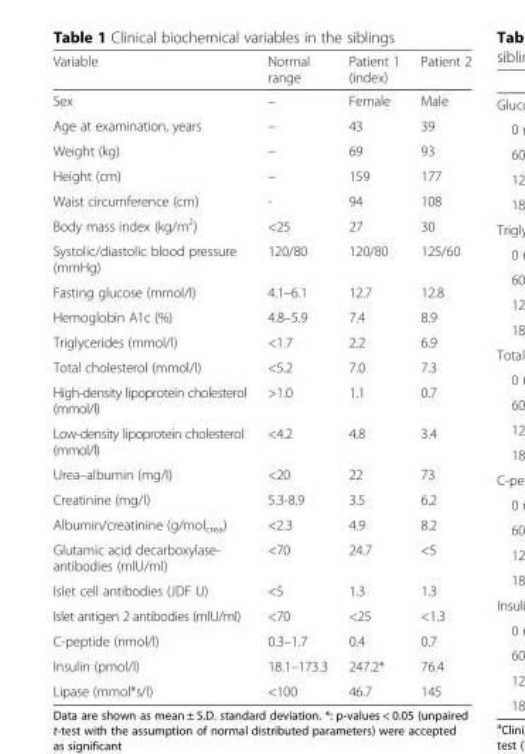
<table><thead><tr><td>Variable</td><td>Normal range</td><td>Patient 1 (index)</td><td>Patient 2</td></tr></thead><tbody><tr><td>Sex</td><td>–</td><td>Female</td><td>Male</td></tr><tr><td>Age at examination, years</td><td>–</td><td>43</td><td>39</td></tr><tr><td>Weight (kg)</td><td>–</td><td>69</td><td>93</td></tr><tr><td>Height (cm)</td><td>–</td><td>159</td><td>177</td></tr><tr><td>Waist circumference (cm)</td><td>-</td><td>94</td><td>108</td></tr><tr><td>Body mass index (kg/m<sup>2</sup>)</td><td>&lt;25</td><td>27</td><td>30</td></tr><tr><td>Systolic/diastolic blood pressure (mmHg)</td><td>120/80</td><td>120/80</td><td>125/60</td></tr><tr><td>Fasting glucose (mmol/l)</td><td>4.1–6.1</td><td>12.7</td><td>12.8</td></tr><tr><td>Hemoglobin A1c (%)</td><td>4.8–5.9</td><td>7.4</td><td>8.9</td></tr><tr><td>Triglycerides (mmol/l)</td><td>&lt;1.7</td><td>2.2</td><td>6.9</td></tr><tr><td>Total cholesterol (mmol/l)</td><td>&lt;5.2</td><td>7.0</td><td>7.3</td></tr><tr><td>High-density lipoprotein cholesterol (mmol/l)</td><td>&gt;1.0</td><td>1.1</td><td>0.7</td></tr><tr><td>Low-density lipoprotein cholesterol (mmol/l)</td><td>&lt;4.2</td><td>4.8</td><td>3.4</td></tr><tr><td>Urea–albumin (mg/l)</td><td>&lt;20</td><td>22</td><td>73</td></tr><tr><td>Creatinine (mg/l)</td><td>5.3-8.9</td><td>3.5</td><td>6.2</td></tr><tr><td>Albumin/creatinine (g/mol<sub>crea</sub>)</td><td>&lt;2.3</td><td>4.9</td><td>8.2</td></tr><tr><td>Glutamic acid decarboxylase- antibodies (mlU/ml)</td><td>&lt;70</td><td>24.7</td><td>&lt;5</td></tr><tr><td>Islet cell antibodies (JDF U)</td><td>&lt;5</td><td>1.3</td><td>1.3</td></tr><tr><td>Islet antigen 2 antibodies (mlU/ml)</td><td>&lt;70</td><td>&lt;25</td><td>&lt;1.3</td></tr><tr><td>C-peptide (nmol/l)</td><td>0.3–1.7</td><td>0.4</td><td>0.7</td></tr><tr><td>Insulin (pmol/l)</td><td>18.1–173.3</td><td>247.2*</td><td>76.4</td></tr><tr><td>Lipase (mmol*s/l)</td><td>&lt;100</td><td>46.7</td><td>145</td></tr></tbody></table>